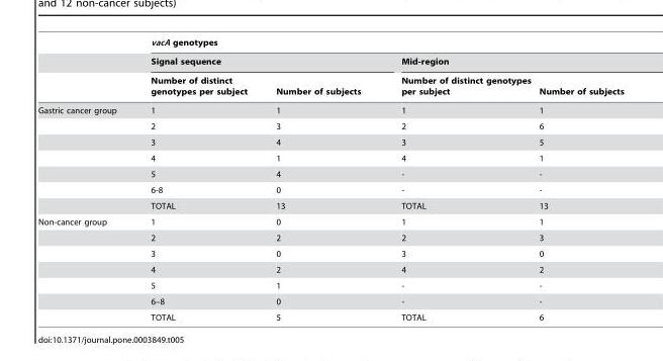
<table><thead><tr><td rowspan="3"></td><td colspan="4">vacA genotypes</td></tr><tr><td colspan="2">Signal sequence</td><td colspan="2">Mid-region</td></tr><tr><td>Number of distinct genotypes per subject</td><td>Number of subjects</td><td>Number of distinct genotypes per subject</td><td>Number of subjects</td></tr></thead><tbody><tr><td rowspan="7">Gastric cancer group</td><td>1</td><td>1</td><td>1</td><td>1</td></tr><tr><td>2</td><td>3</td><td>2</td><td>6</td></tr><tr><td>3</td><td>4</td><td>3</td><td>5</td></tr><tr><td>4</td><td>1</td><td>4</td><td>1</td></tr><tr><td>5</td><td>4</td><td>-</td><td>-</td></tr><tr><td>6-8</td><td>0</td><td>-</td><td>-</td></tr><tr><td>TOTAL</td><td>13</td><td>TOTAL</td><td>13</td></tr><tr><td rowspan="7">Non-cancer group</td><td>1</td><td>0</td><td>1</td><td>1</td></tr><tr><td>2</td><td>2</td><td>2</td><td>3</td></tr><tr><td>3</td><td>0</td><td>3</td><td>0</td></tr><tr><td>4</td><td>2</td><td>4</td><td>2</td></tr><tr><td>5</td><td>1</td><td>-</td><td>-</td></tr><tr><td>6–8</td><td>0</td><td>-</td><td>-</td></tr><tr><td>TOTAL</td><td>5</td><td>TOTAL</td><td>6</td></tr></tbody></table>